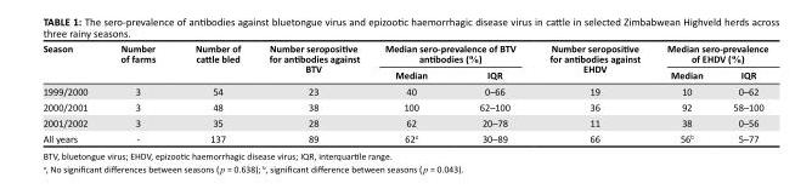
<table><thead><tr><td rowspan="2">Season</td><td rowspan="2">Number of farms</td><td rowspan="2">Number of cattle bled</td><td rowspan="2">Number seropositive for antibodies against BTV</td><td colspan="2">Median sero-prevalence of BTV antibodies (%)</td><td rowspan="2">Number seropositive for antibodies against EHDV</td><td colspan="2">Median sero-prevalence of EHDV (%)</td></tr><tr><td>Median</td><td>IQR</td><td>Median</td><td>IQR</td></tr></thead><tbody><tr><td>1999/2000</td><td>3</td><td>54</td><td>23</td><td>40</td><td>0–66</td><td>19</td><td>10</td><td>0–62</td></tr><tr><td>2000/2001</td><td>3</td><td>48</td><td>38</td><td>100</td><td>62–100</td><td>36</td><td>92</td><td>58–100</td></tr><tr><td>2001/2002</td><td>3</td><td>35</td><td>28</td><td>62</td><td>20–78</td><td>11</td><td>38</td><td>0–56</td></tr><tr><td>All years</td><td>-</td><td>137</td><td>89</td><td>62<sup>a</sup></td><td>30–89</td><td>66</td><td>56<sup>b</sup></td><td>5–77</td></tr></tbody></table>